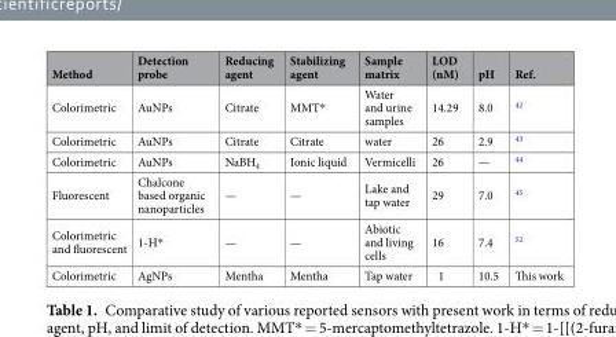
<table><thead><tr><td>Method</td><td>Detection probe</td><td>Reducing agent</td><td>Stabilizing agent</td><td>Sample matrix</td><td>LOD (nM)</td><td>pH</td><td>Ref.</td></tr></thead><tbody><tr><td>Colorimetric</td><td>AuNPs</td><td>Citrate</td><td>MMT*</td><td>Water and urine samples</td><td>14.29</td><td>8.0</td><td><sup>42</sup></td></tr><tr><td>Colorimetric</td><td>AuNPs</td><td>Citrate</td><td>Citrate</td><td>water</td><td>26</td><td>2.9</td><td><sup>43</sup></td></tr><tr><td>Colorimetric</td><td>AuNPs</td><td>NaBH<sub>4</sub></td><td>Ionic liquid</td><td>Vermicelli</td><td>26</td><td>—</td><td><sup>44</sup></td></tr><tr><td>Fluorescent</td><td>Chalcone based organic nanoparticles</td><td>—</td><td>—</td><td>Lake and tap water</td><td>29</td><td>7.0</td><td><sup>45</sup></td></tr><tr><td>Colorimetric and fluorescent</td><td>1-H*</td><td>—</td><td>—</td><td>Abiotic and living cells</td><td>16</td><td>7.4</td><td><sup>52</sup></td></tr><tr><td>Colorimetric</td><td>AgNPs</td><td>Mentha</td><td>Mentha</td><td>Tap water</td><td>1</td><td>10.5</td><td>This work</td></tr></tbody></table>